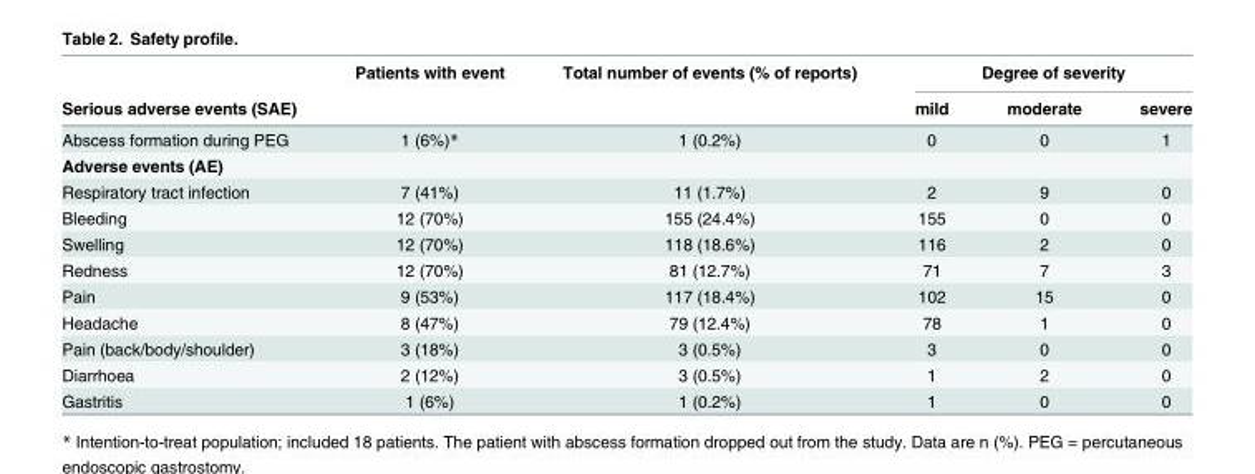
<table><thead><tr><td rowspan="2">Serious adverse events (SAE)</td><td rowspan="2">Patients with event</td><td rowspan="2">Total number of events (% of reports)</td><td colspan="3">Degree of severity</td></tr><tr><td>mild</td><td>moderate</td><td>severe</td></tr></thead><tbody><tr><td>Abscess formation during PEG</td><td>1 (6%)*</td><td>1 (0.2%)</td><td>0</td><td>0</td><td>1</td></tr><tr><td colspan="6">Adverse events (AE)</td></tr><tr><td>Respiratory tract infection</td><td>7 (41%)</td><td>11 (1.7%)</td><td>2</td><td>9</td><td>0</td></tr><tr><td>Bleeding</td><td>12 (70%)</td><td>155 (24.4%)</td><td>155</td><td>0</td><td>0</td></tr><tr><td>Swelling</td><td>12 (70%)</td><td>118 (18.6%)</td><td>116</td><td>2</td><td>0</td></tr><tr><td>Redness</td><td>12 (70%)</td><td>81 (12.7%)</td><td>71</td><td>7</td><td>3</td></tr><tr><td>Pain</td><td>9 (53%)</td><td>117 (18.4%)</td><td>102</td><td>15</td><td>0</td></tr><tr><td>Headache</td><td>8 (47%)</td><td>79 (12.4%)</td><td>78</td><td>1</td><td>0</td></tr><tr><td>Pain (back/body/shoulder)</td><td>3 (18%)</td><td>3 (0.5%)</td><td>3</td><td>0</td><td>0</td></tr><tr><td>Diarrhoea</td><td>2 (12%)</td><td>3 (0.5%)</td><td>1</td><td>2</td><td>0</td></tr><tr><td>Gastritis</td><td>1 (6%)</td><td>1 (0.2%)</td><td>1</td><td>0</td><td>0</td></tr></tbody></table>